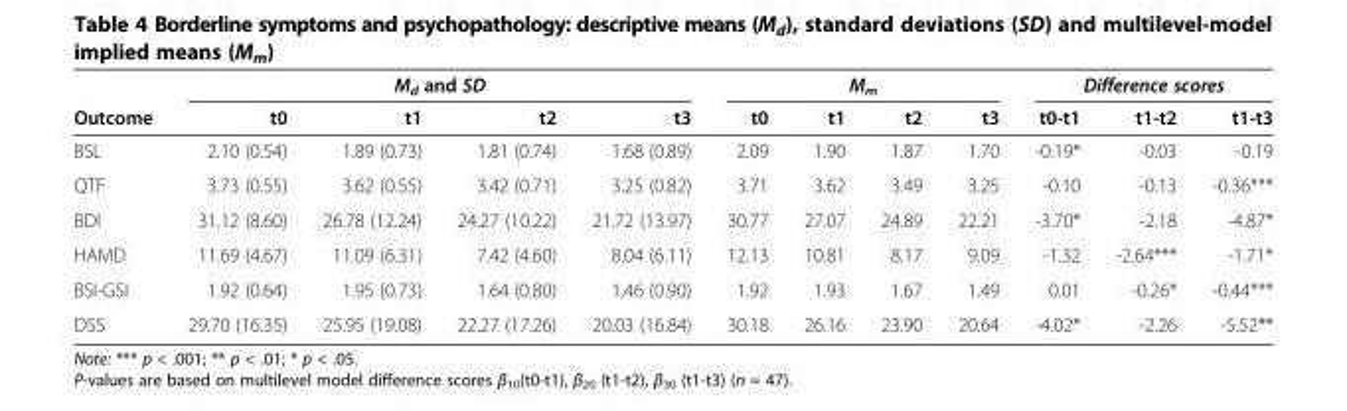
<table><thead><tr><td rowspan="2">Outcome</td><td colspan="4">M<sub>d</sub> and SD</td><td colspan="4">M<sub>m</sub></td><td colspan="3">Difference scores</td></tr><tr><td>t0</td><td>t1</td><td>t2</td><td>t3</td><td>t0</td><td>t1</td><td>t2</td><td>t3</td><td>t0-t1</td><td>t1-t2</td><td>t1-t3</td></tr></thead><tbody><tr><td>BSL</td><td>2.10 (0.54)</td><td>1.89 (0.73)</td><td>1.81 (0.74)</td><td>1.68 (0.89)</td><td>2.09</td><td>1.90</td><td>1.87</td><td>1.70</td><td>-0.19*</td><td>-0.03</td><td>-0.19</td></tr><tr><td>QTF</td><td>3.73 (0.55)</td><td>3.62 (0.55)</td><td>3.42 (0.71)</td><td>3.25 (0.82)</td><td>3.71</td><td>3.62</td><td>3.49</td><td>3.25</td><td>-0.10</td><td>-0.13</td><td>-0.36***</td></tr><tr><td>BDI</td><td>31.12 (8.60)</td><td>26.78 (12.24)</td><td>24.27 (10.22)</td><td>21.72 (13.97)</td><td>30.77</td><td>27.07</td><td>24.89</td><td>22.21</td><td>-3.70*</td><td>-2.18</td><td>-4.87*</td></tr><tr><td>HAMD</td><td>11.69 (4.67)</td><td>11.09 (6.31)</td><td>7.42 (4.60)</td><td>8.04 (6.11)</td><td>12.13</td><td>10.81</td><td>8.17</td><td>9.09</td><td>-1.32</td><td>-2.64***</td><td>-1.71*</td></tr><tr><td>BSI-GSI</td><td>1.92 (0.64)</td><td>1.95 (0.73)</td><td>1.64 (0.80)</td><td>1.46 (0.90)</td><td>1.92</td><td>1.93</td><td>1.67</td><td>1.49</td><td>0.01</td><td>-0.26*</td><td>-0.44***</td></tr><tr><td>DSS</td><td>29.70 (16.35)</td><td>25.95 (19.08)</td><td>22.27 (17.26)</td><td>20.03 (16.84)</td><td>30.18</td><td>26.16</td><td>23.90</td><td>20.64</td><td>-4.02*</td><td>-2.26</td><td>-5.52**</td></tr></tbody></table>